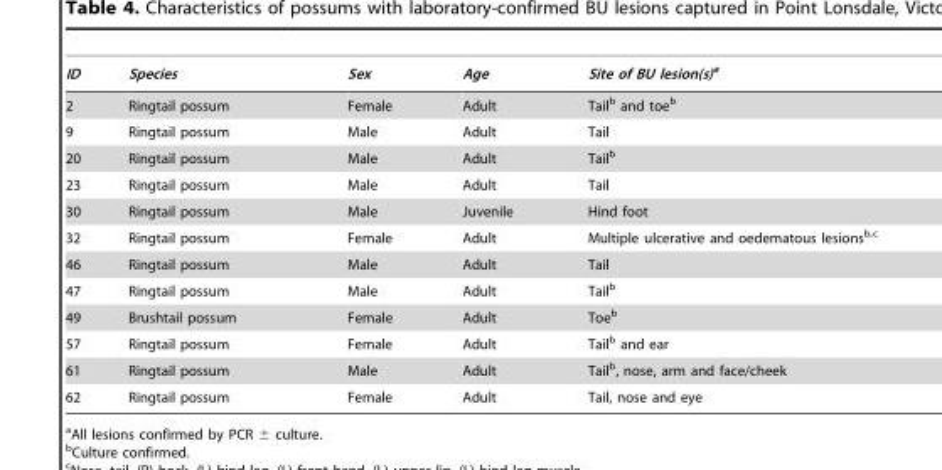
<table><thead><tr><td>ID</td><td>Species</td><td>Sex</td><td>Age</td><td>Site of BU lesion(s)a</td></tr></thead><tbody><tr><td>2</td><td>Ringtail possum</td><td>Female</td><td>Adult</td><td>Tail<sup>b</sup> and toe<sup>b</sup></td></tr><tr><td>9</td><td>Ringtail possum</td><td>Male</td><td>Adult</td><td>Tail</td></tr><tr><td>20</td><td>Ringtail possum</td><td>Male</td><td>Adult</td><td>Tail<sup>b</sup></td></tr><tr><td>23</td><td>Ringtail possum</td><td>Male</td><td>Adult</td><td>Tail</td></tr><tr><td>30</td><td>Ringtail possum</td><td>Male</td><td>Juvenile</td><td>Hind foot</td></tr><tr><td>32</td><td>Ringtail possum</td><td>Female</td><td>Adult</td><td>Multiple ulcerative and oedematous lesions<sup>b,</sup>c</td></tr><tr><td>46</td><td>Ringtail possum</td><td>Male</td><td>Adult</td><td>Tail</td></tr><tr><td>47</td><td>Ringtail possum</td><td>Male</td><td>Adult</td><td>Tail<sup>b</sup></td></tr><tr><td>49</td><td>Brushtail possum</td><td>Female</td><td>Adult</td><td>Toe<sup>b</sup></td></tr><tr><td>57</td><td>Ringtail possum</td><td>Female</td><td>Adult</td><td>Tail<sup>b</sup> and ear</td></tr><tr><td>61</td><td>Ringtail possum</td><td>Male</td><td>Adult</td><td>Tail<sup>b</sup>, nose, arm and face/cheek</td></tr><tr><td>62</td><td>Ringtail possum</td><td>Female</td><td>Adult</td><td>Tail, nose and eye</td></tr></tbody></table>